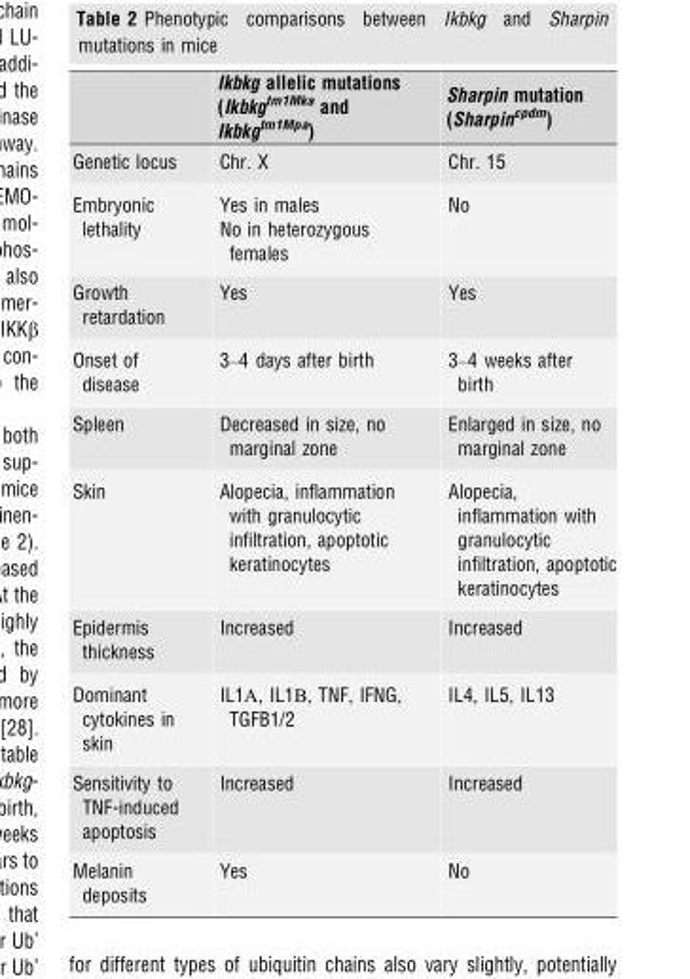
<table><thead><tr><td></td><td>Ikbkg allelic mutations (Ikbkg<sup>tm1Mka</sup> and Ikbkg<sup>tm1Mpa</sup>)</td><td>Sharpin mutation (Sharpin<sup>cpdm</sup>)</td></tr></thead><tbody><tr><td>Genetic locus</td><td>Chr. X</td><td>Chr. 15</td></tr><tr><td>Embryonic lethality</td><td>Yes in males No in heterozygous females</td><td>No</td></tr><tr><td>Growth retardation</td><td>Yes</td><td>Yes</td></tr><tr><td>Onset of disease</td><td>3–4 days after birth</td><td>3–4 weeks after birth</td></tr><tr><td>Spleen</td><td>Decreased in size, no marginal zone</td><td>Enlarged in size, no marginal zone</td></tr><tr><td>Skin</td><td>Alopecia, inflammation with granulocytic infiltration, apoptotic keratinocytes</td><td>Alopecia, inflammation with granulocytic infiltration, apoptotic keratinocytes</td></tr><tr><td>Epidermis thickness</td><td>Increased</td><td>Increased</td></tr><tr><td>Dominant cytokines in skin</td><td>IL1Α, IL1Β, TNF, IFNG, TGFB1/2</td><td>IL4, IL5, IL13</td></tr><tr><td>Sensitivity to TNF-induced apoptosis</td><td>Increased</td><td>Increased</td></tr><tr><td>Melanin deposits</td><td>Yes</td><td>No</td></tr></tbody></table>